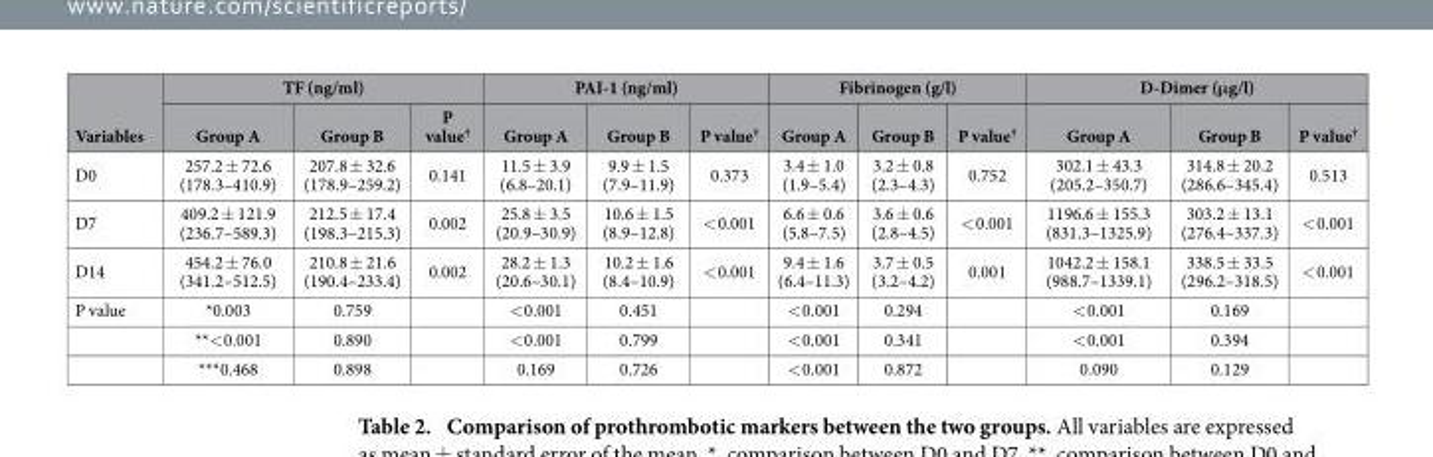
<table><thead><tr><td rowspan="2">Variables</td><td colspan="3">TF (ng/ml)</td><td colspan="3">PAI-1 (ng/ml)</td><td colspan="3">Fibrinogen (g/l)</td><td colspan="3">D-Dimer (μg/l)</td></tr><tr><td>Group A</td><td>Group B</td><td>P value<sup>†</sup></td><td>Group A</td><td>Group B</td><td>P value<sup>†</sup></td><td>Group A</td><td>Group B</td><td>P value<sup>†</sup></td><td>Group A</td><td>Group B</td><td>P value<sup>†</sup></td></tr></thead><tbody><tr><td>D0</td><td>257.2 ± 72.6 (178.3–410.9)</td><td>207.8 ± 32.6 (178.9–259.2)</td><td>0.141</td><td>11.5 ± 3.9 (6.8–20.1)</td><td>9.9 ± 1.5 (7.9–11.9)</td><td>0.373</td><td>3.4 ± 1.0 (1.9–5.4)</td><td>3.2 ± 0.8 (2.3–4.3)</td><td>0.752</td><td>302.1 ± 43.3 (205.2–350.7)</td><td>314.8 ± 20.2 (286.6–345.4)</td><td>0.513</td></tr><tr><td>D7</td><td>409.2 ± 121.9 (236.7–589.3)</td><td>212.5 ± 17.4 (198.3–215.3)</td><td>0.002</td><td>25.8 ± 3.5 (20.9–30.9)</td><td>10.6 ± 1.5 (8.9–12.8)</td><td>&lt; 0.001</td><td>6.6 ± 0.6 (5.8–7.5)</td><td>3.6 ± 0.6 (2.8–4.5)</td><td>&lt; 0.001</td><td>1196.6 ± 155.3 (831.3–1325.9)</td><td>303.2 ± 13.1 (276.4–337.3)</td><td>&lt; 0.001</td></tr><tr><td>D14</td><td>454.2 ± 76.0 (341.2–512.5)</td><td>210.8 ± 21.6 (190.4–233.4)</td><td>0.002</td><td>28.2 ± 1.3 (20.6–30.1)</td><td>10.2 ± 1.6 (8.4–10.9)</td><td>&lt; 0.001</td><td>9.4 ± 1.6 (6.4–11.3)</td><td>3.7 ± 0.5 (3.2–4.2)</td><td>0.001</td><td>1042.2 ± 158.1 (988.7–1339.1)</td><td>338.5 ± 33.5 (296.2–318.5)</td><td>&lt; 0.001</td></tr><tr><td rowspan="3">P value</td><td>*0.003</td><td>0.759</td><td></td><td>&lt; 0.001</td><td>0.451</td><td></td><td>&lt; 0.001</td><td>0.294</td><td></td><td>&lt; 0.001</td><td>0.169</td><td></td></tr><tr><td>**&lt; 0.001</td><td>0.890</td><td></td><td>&lt; 0.001</td><td>0.799</td><td></td><td>&lt; 0.001</td><td>0.341</td><td></td><td>&lt; 0.001</td><td>0.394</td><td></td></tr><tr><td>***0.468</td><td>0.898</td><td></td><td>0.169</td><td>0.726</td><td></td><td>&lt; 0.001</td><td>0.872</td><td></td><td>0.090</td><td>0.129</td><td></td></tr></tbody></table>